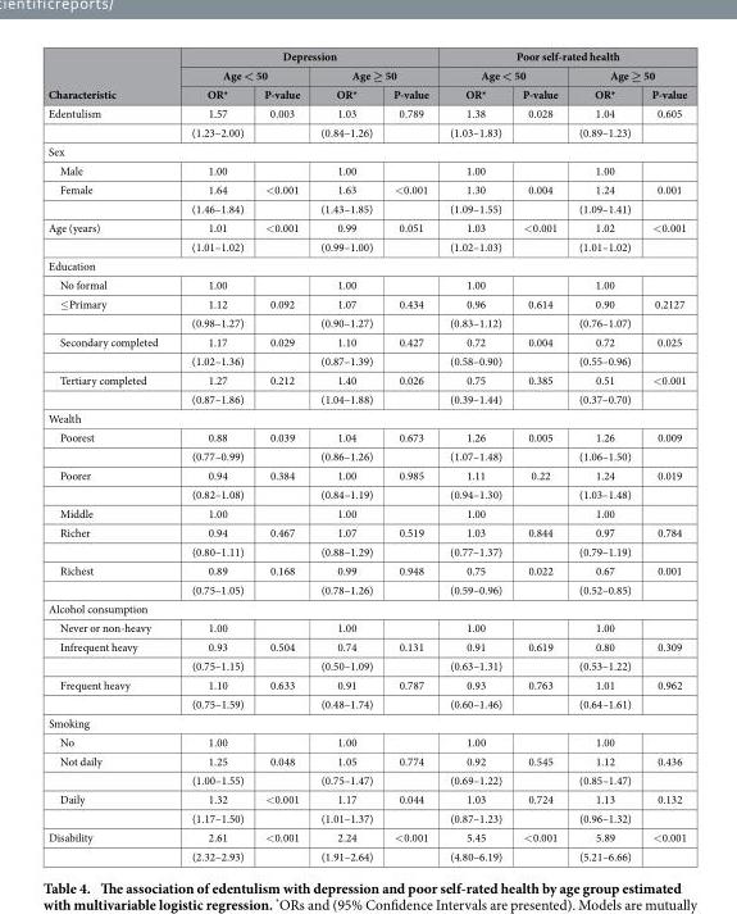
<table><thead><tr><td rowspan="3">Characteristic</td><td colspan="4">Depression</td><td colspan="4">Poor self-rated health</td></tr><tr><td colspan="2">Age &lt; 50</td><td colspan="2">Age ≥ 50</td><td colspan="2">Age &lt; 50</td><td colspan="2">Age ≥ 50</td></tr><tr><td>OR*</td><td>P-value</td><td>OR*</td><td>P-value</td><td>OR*</td><td>P-value</td><td>OR*</td><td>P-value</td></tr></thead><tbody><tr><td rowspan="2">Edentulism</td><td>1.57</td><td>0.003</td><td>1.03</td><td>0.789</td><td>1.38</td><td>0.028</td><td>1.04</td><td>0.605</td></tr><tr><td>(1.23–2.00)</td><td></td><td>(0.84–1.26)</td><td></td><td>(1.03–1.83)</td><td></td><td>(0.89–1.23)</td><td></td></tr><tr><td colspan="9">Sex</td></tr><tr><td>Male</td><td>1.00</td><td></td><td>1.00</td><td></td><td>1.00</td><td></td><td>1.00</td><td></td></tr><tr><td rowspan="2">Female</td><td>1.64</td><td>&lt; 0.001</td><td>1.63</td><td>&lt; 0.001</td><td>1.30</td><td>0.004</td><td>1.24</td><td>0.001</td></tr><tr><td>(1.46–1.84)</td><td></td><td>(1.43–1.85)</td><td></td><td>(1.09–1.55)</td><td></td><td>(1.09–1.41)</td><td></td></tr><tr><td rowspan="2">Age (years)</td><td>1.01</td><td>&lt; 0.001</td><td>0.99</td><td>0.051</td><td>1.03</td><td>&lt; 0.001</td><td>1.02</td><td>&lt; 0.001</td></tr><tr><td>(1.01–1.02)</td><td></td><td>(0.99–1.00)</td><td></td><td>(1.02–1.03)</td><td></td><td>(1.01–1.02)</td><td></td></tr><tr><td colspan="9">Education</td></tr><tr><td>No formal</td><td>1.00</td><td></td><td>1.00</td><td></td><td>1.00</td><td></td><td>1.00</td><td></td></tr><tr><td rowspan="2">≤ Primary</td><td>1.12</td><td>0.092</td><td>1.07</td><td>0.434</td><td>0.96</td><td>0.614</td><td>0.90</td><td>0.2127</td></tr><tr><td>(0.98–1.27)</td><td></td><td>(0.90–1.27)</td><td></td><td>(0.83–1.12)</td><td></td><td>(0.76–1.07)</td><td></td></tr><tr><td rowspan="2">Secondary completed</td><td>1.17</td><td>0.029</td><td>1.10</td><td>0.427</td><td>0.72</td><td>0.004</td><td>0.72</td><td>0.025</td></tr><tr><td>(1.02–1.36)</td><td></td><td>(0.87–1.39)</td><td></td><td>(0.58–0.90)</td><td></td><td>(0.55–0.96)</td><td></td></tr><tr><td rowspan="2">Tertiary completed</td><td>1.27</td><td>0.212</td><td>1.40</td><td>0.026</td><td>0.75</td><td>0.385</td><td>0.51</td><td>&lt; 0.001</td></tr><tr><td>(0.87–1.86)</td><td></td><td>(1.04–1.88)</td><td></td><td>(0.39–1.44)</td><td></td><td>(0.37–0.70)</td><td></td></tr><tr><td colspan="9">Wealth</td></tr><tr><td rowspan="2">Poorest</td><td>0.88</td><td>0.039</td><td>1.04</td><td>0.673</td><td>1.26</td><td>0.005</td><td>1.26</td><td>0.009</td></tr><tr><td>(0.77–0.99)</td><td></td><td>(0.86–1.26)</td><td></td><td>(1.07–1.48)</td><td></td><td>(1.06–1.50)</td><td></td></tr><tr><td rowspan="2">Poorer</td><td>0.94</td><td>0.384</td><td>1.00</td><td>0.985</td><td>1.11</td><td>0.22</td><td>1.24</td><td>0.019</td></tr><tr><td>(0.82–1.08)</td><td></td><td>(0.84–1.19)</td><td></td><td>(0.94–1.30)</td><td></td><td>(1.03–1.48)</td><td></td></tr><tr><td>Middle</td><td>1.00</td><td></td><td>1.00</td><td></td><td>1.00</td><td></td><td>1.00</td><td></td></tr><tr><td rowspan="2">Richer</td><td>0.94</td><td>0.467</td><td>1.07</td><td>0.519</td><td>1.03</td><td>0.844</td><td>0.97</td><td>0.784</td></tr><tr><td>(0.80–1.11)</td><td></td><td>(0.88–1.29)</td><td></td><td>(0.77–1.37)</td><td></td><td>(0.79–1.19)</td><td></td></tr><tr><td rowspan="2">Richest</td><td>0.89</td><td>0.168</td><td>0.99</td><td>0.948</td><td>0.75</td><td>0.022</td><td>0.67</td><td>0.001</td></tr><tr><td>(0.75–1.05)</td><td></td><td>(0.78–1.26)</td><td></td><td>(0.59–0.96)</td><td></td><td>(0.52–0.85)</td><td></td></tr><tr><td colspan="9">Alcohol consumption</td></tr><tr><td>Never or non-heavy</td><td>1.00</td><td></td><td>1.00</td><td></td><td>1.00</td><td></td><td>1.00</td><td></td></tr><tr><td rowspan="2">Infrequent heavy</td><td>0.93</td><td>0.504</td><td>0.74</td><td>0.131</td><td>0.91</td><td>0.619</td><td>0.80</td><td>0.309</td></tr><tr><td>(0.75–1.15)</td><td></td><td>(0.50–1.09)</td><td></td><td>(0.63–1.31)</td><td></td><td>(0.53–1.22)</td><td></td></tr><tr><td rowspan="2">Frequent heavy</td><td>1.10</td><td>0.633</td><td>0.91</td><td>0.787</td><td>0.93</td><td>0.763</td><td>1.01</td><td>0.962</td></tr><tr><td>(0.75–1.59)</td><td></td><td>(0.48–1.74)</td><td></td><td>(0.60–1.46)</td><td></td><td>(0.64–1.61)</td><td></td></tr><tr><td colspan="9">Smoking</td></tr><tr><td>No</td><td>1.00</td><td></td><td>1.00</td><td></td><td>1.00</td><td></td><td>1.00</td><td></td></tr><tr><td rowspan="2">Not daily</td><td>1.25</td><td>0.048</td><td>1.05</td><td>0.774</td><td>0.92</td><td>0.545</td><td>1.12</td><td>0.436</td></tr><tr><td>(1.00–1.55)</td><td></td><td>(0.75–1.47)</td><td></td><td>(0.69–1.22)</td><td></td><td>(0.85–1.47)</td><td></td></tr><tr><td rowspan="2">Daily</td><td>1.32</td><td>&lt; 0.001</td><td>1.17</td><td>0.044</td><td>1.03</td><td>0.724</td><td>1.13</td><td>0.132</td></tr><tr><td>(1.17–1.50)</td><td></td><td>(1.01–1.37)</td><td></td><td>(0.87–1.23)</td><td></td><td>(0.96–1.32)</td><td></td></tr><tr><td rowspan="2">Disability</td><td>2.61</td><td>&lt; 0.001</td><td>2.24</td><td>&lt; 0.001</td><td>5.45</td><td>&lt; 0.001</td><td>5.89</td><td>&lt; 0.001</td></tr><tr><td>(2.32–2.93)</td><td></td><td>(1.91–2.64)</td><td></td><td>(4.80–6.19)</td><td></td><td>(5.21–6.66)</td><td></td></tr></tbody></table>